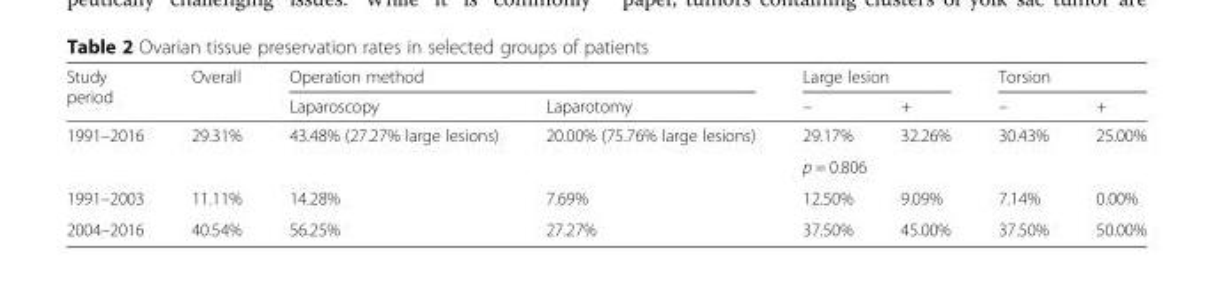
<table><thead><tr><td rowspan="2">Study period</td><td rowspan="2">Overall</td><td colspan="2">Operation method</td><td colspan="2">Large lesion</td><td colspan="2">Torsion</td></tr><tr><td>Laparoscopy</td><td>Laparotomy</td><td>–</td><td>+</td><td>–</td><td>+</td></tr></thead><tbody><tr><td rowspan="2">1991–2016</td><td rowspan="2">29.31%</td><td rowspan="2">43.48% (27.27% large lesions)</td><td rowspan="2">20.00% (75.76% large lesions)</td><td>29.17%</td><td>32.26%</td><td rowspan="2">30.43%</td><td rowspan="2">25.00%</td></tr><tr><td colspan="2">p = 0.806</td></tr><tr><td>1991–2003</td><td>11.11%</td><td>14.28%</td><td>7.69%</td><td>12.50%</td><td>9.09%</td><td>7.14%</td><td>0.00%</td></tr><tr><td>2004–2016</td><td>40.54%</td><td>56.25%</td><td>27.27%</td><td>37.50%</td><td>45.00%</td><td>37.50%</td><td>50.00%</td></tr></tbody></table>